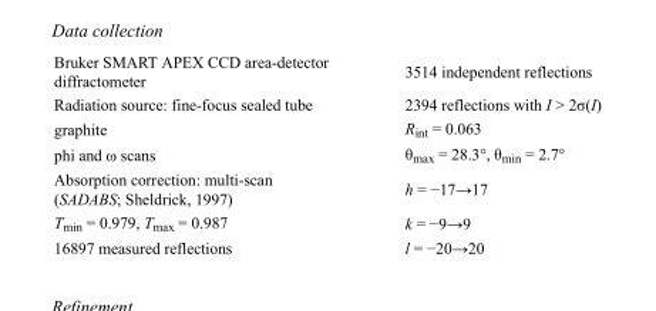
<table><tbody><tr><td>Bruker SMART APEX CCD area-detector diffractometer</td><td>3514 independent reflections</td></tr><tr><td>Radiation source: fine-focus sealed tube</td><td>2394 reflections with I &gt; 2σ(I)</td></tr><tr><td>graphite</td><td>R<sub>int</sub> = 0.063</td></tr><tr><td>phi and ω scans</td><td>θ<sub>max</sub> = 28.3°, θ<sub>min</sub> = 2.7°</td></tr><tr><td>Absorption correction: multi-scan (SADABS; Sheldrick, 1997)</td><td>h = −17→17</td></tr><tr><td>T<sub>min</sub> = 0.979, T<sub>max</sub> = 0.987</td><td>k = −9→9</td></tr><tr><td>16897 measured reflections</td><td>l = −20→20</td></tr></tbody></table>